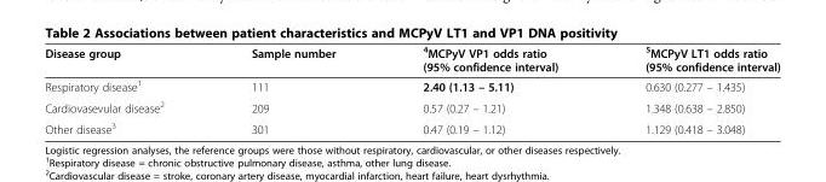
<table><thead><tr><td>Disease group</td><td>Sample number</td><td><sup>4</sup>MCPyV VP1 odds ratio (95% confidence interval)</td><td><sup>5</sup>MCPyV LT1 odds ratio (95% confidence interval)</td></tr></thead><tbody><tr><td>Respiratory disease<sup>1</sup></td><td>111</td><td>2.40 (1.13 – 5.11)</td><td>0.630 (0.277 – 1.435)</td></tr><tr><td>Cardiovasevular disease<sup>2</sup></td><td>209</td><td>0.57 (0.27 – 1.21)</td><td>1.348 (0.638 – 2.850)</td></tr><tr><td>Other disease<sup>3</sup></td><td>301</td><td>0.47 (0.19 – 1.12)</td><td>1.129 (0.418 – 3.048)</td></tr></tbody></table>